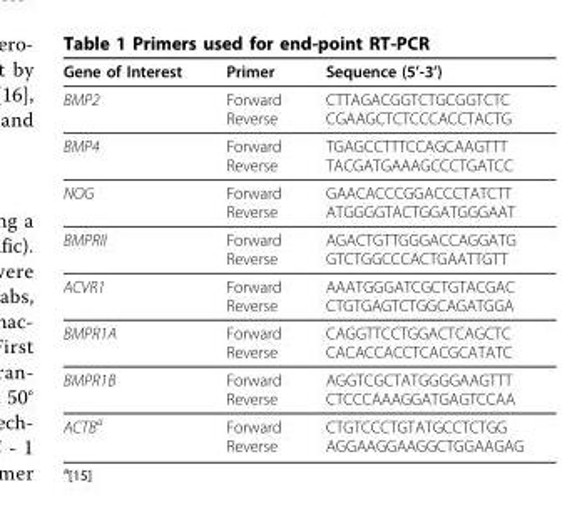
<table><thead><tr><td>Gene of Interest</td><td>Primer</td><td>Sequence (5’-3’)</td></tr></thead><tbody><tr><td>BMP2</td><td>Forward Reverse</td><td>CTTAGACGGTCTGCGGTCTC CGAAGCTCTCCCACCTACTG</td></tr><tr><td>BMP4</td><td>Forward Reverse</td><td>TGAGCCTTTCCAGCAAGTTT TACGATGAAAGCCCTGATCC</td></tr><tr><td>NOG</td><td>Forward Reverse</td><td>GAACACCCGGACCCTATCTT ATGGGGTACTGGATGGGAAT</td></tr><tr><td>BMPRII</td><td>Forward Reverse</td><td>AGACTGTTGGGACCAGGATG GTCTGGCCCACTGAATTGTT</td></tr><tr><td>ACVR1</td><td>Forward Reverse</td><td>AAATGGGATCGCTGTACGAC CTGTGAGTCTGGCAGATGGA</td></tr><tr><td>BMPR1A</td><td>Forward Reverse</td><td>CAGGTTCCTGGACTCAGCTC CACACCACCTCACGCATATC</td></tr><tr><td>BMPR1B</td><td>Forward Reverse</td><td>AGGTCGCTATGGGGAAGTTT CTCCCAAAGGATGAGTCCAA</td></tr><tr><td>ACTB<sup>a</sup></td><td>Forward Reverse</td><td>CTGTCCCTGTATGCCTCTGG AGGAAGGAAGGCTGGAAGAG</td></tr></tbody></table>